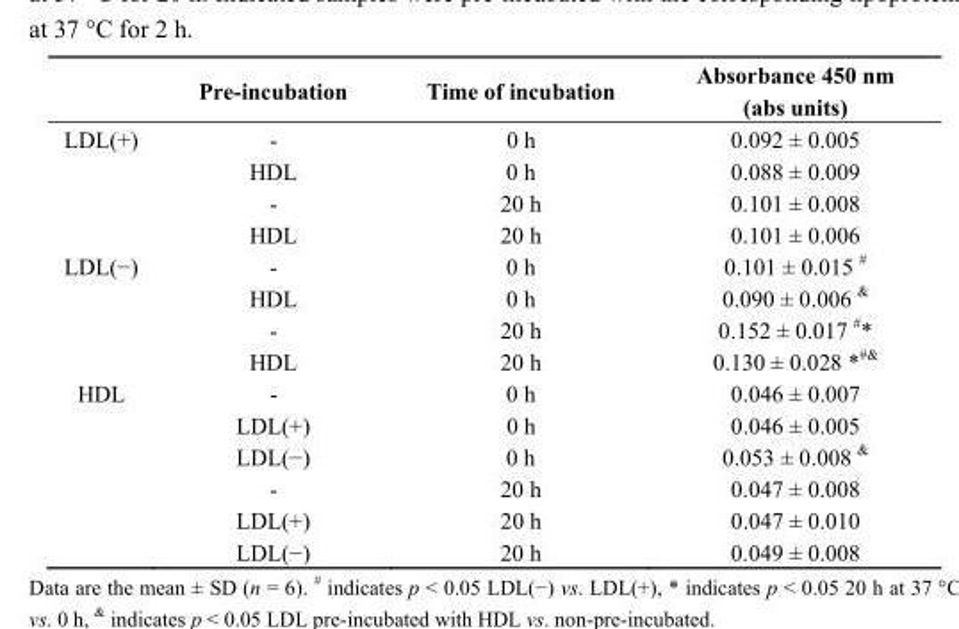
<table><thead><tr><td></td><td>Pre-incubation</td><td>Time of incubation</td><td>Absorbance 450 nm (abs units)</td></tr></thead><tbody><tr><td rowspan="4">LDL(+)</td><td>-</td><td>0 h</td><td>0.092 ± 0.005</td></tr><tr><td>HDL</td><td>0 h</td><td>0.088 ± 0.009</td></tr><tr><td>-</td><td>20 h</td><td>0.101 ± 0.008</td></tr><tr><td>HDL</td><td>20 h</td><td>0.101 ± 0.006</td></tr><tr><td rowspan="4">LDL(−)</td><td>-</td><td>0 h</td><td>0.101 ± 0.015 #</td></tr><tr><td>HDL</td><td>0 h</td><td>0.090 ± 0.006 &amp;</td></tr><tr><td>-</td><td>20 h</td><td>0.152 ± 0.017 #*</td></tr><tr><td>HDL</td><td>20 h</td><td>0.130 ± 0.028 *#&amp;</td></tr><tr><td rowspan="6">HDL</td><td>-</td><td>0 h</td><td>0.046 ± 0.007</td></tr><tr><td>LDL(+)</td><td>0 h</td><td>0.046 ± 0.005</td></tr><tr><td>LDL(−)</td><td>0 h</td><td>0.053 ± 0.008 &amp;</td></tr><tr><td>-</td><td>20 h</td><td>0.047 ± 0.008</td></tr><tr><td>LDL(+)</td><td>20 h</td><td>0.047 ± 0.010</td></tr><tr><td>LDL(−)</td><td>20 h</td><td>0.049 ± 0.008</td></tr></tbody></table>